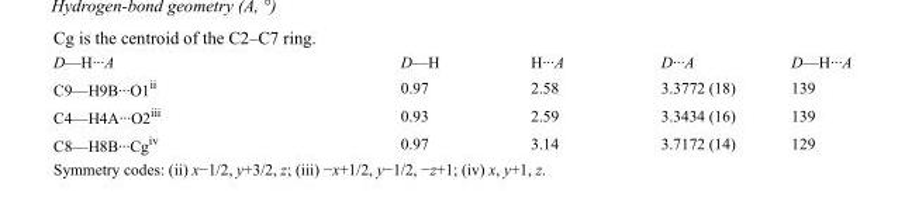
<table><tbody><tr><td>D—H···A</td><td>D—H</td><td>H···A</td><td>D···A</td><td>D—H···A</td></tr><tr><td>C9—H9B···O1<sup>ii</sup></td><td>0.97</td><td>2.58</td><td>3.3772 (18)</td><td>139</td></tr><tr><td>C4—H4A···O2<sup>iii</sup></td><td>0.93</td><td>2.59</td><td>3.3434 (16)</td><td>139</td></tr><tr><td>C8—H8B···Cg<sup>iv</sup></td><td>0.97</td><td>3.14</td><td>3.7172 (14)</td><td>129</td></tr></tbody></table>